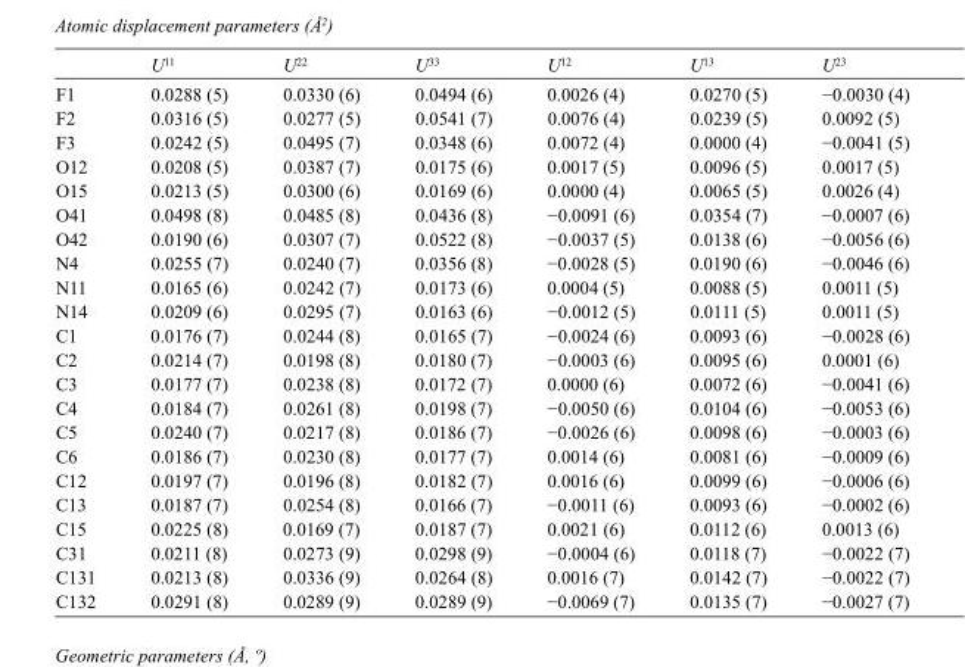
<table><thead><tr><td></td><td>U<sup>11</sup></td><td>U<sup>22</sup></td><td>U<sup>33</sup></td><td>U<sup>12</sup></td><td>U<sup>13</sup></td><td>U<sup>23</sup></td></tr></thead><tbody><tr><td>F1</td><td>0.0288 (5)</td><td>0.0330 (6)</td><td>0.0494 (6)</td><td>0.0026 (4)</td><td>0.0270 (5)</td><td>−0.0030 (4)</td></tr><tr><td>F2</td><td>0.0316 (5)</td><td>0.0277 (5)</td><td>0.0541 (7)</td><td>0.0076 (4)</td><td>0.0239 (5)</td><td>0.0092 (5)</td></tr><tr><td>F3</td><td>0.0242 (5)</td><td>0.0495 (7)</td><td>0.0348 (6)</td><td>0.0072 (4)</td><td>0.0000 (4)</td><td>−0.0041 (5)</td></tr><tr><td>O12</td><td>0.0208 (5)</td><td>0.0387 (7)</td><td>0.0175 (6)</td><td>0.0017 (5)</td><td>0.0096 (5)</td><td>0.0017 (5)</td></tr><tr><td>O15</td><td>0.0213 (5)</td><td>0.0300 (6)</td><td>0.0169 (6)</td><td>0.0000 (4)</td><td>0.0065 (5)</td><td>0.0026 (4)</td></tr><tr><td>O41</td><td>0.0498 (8)</td><td>0.0485 (8)</td><td>0.0436 (8)</td><td>−0.0091 (6)</td><td>0.0354 (7)</td><td>−0.0007 (6)</td></tr><tr><td>O42</td><td>0.0190 (6)</td><td>0.0307 (7)</td><td>0.0522 (8)</td><td>−0.0037 (5)</td><td>0.0138 (6)</td><td>−0.0056 (6)</td></tr><tr><td>N4</td><td>0.0255 (7)</td><td>0.0240 (7)</td><td>0.0356 (8)</td><td>−0.0028 (5)</td><td>0.0190 (6)</td><td>−0.0046 (6)</td></tr><tr><td>N11</td><td>0.0165 (6)</td><td>0.0242 (7)</td><td>0.0173 (6)</td><td>0.0004 (5)</td><td>0.0088 (5)</td><td>0.0011 (5)</td></tr><tr><td>N14</td><td>0.0209 (6)</td><td>0.0295 (7)</td><td>0.0163 (6)</td><td>−0.0012 (5)</td><td>0.0111 (5)</td><td>0.0011 (5)</td></tr><tr><td>C1</td><td>0.0176 (7)</td><td>0.0244 (8)</td><td>0.0165 (7)</td><td>−0.0024 (6)</td><td>0.0093 (6)</td><td>−0.0028 (6)</td></tr><tr><td>C2</td><td>0.0214 (7)</td><td>0.0198 (8)</td><td>0.0180 (7)</td><td>−0.0003 (6)</td><td>0.0095 (6)</td><td>0.0001 (6)</td></tr><tr><td>C3</td><td>0.0177 (7)</td><td>0.0238 (8)</td><td>0.0172 (7)</td><td>0.0000 (6)</td><td>0.0072 (6)</td><td>−0.0041 (6)</td></tr><tr><td>C4</td><td>0.0184 (7)</td><td>0.0261 (8)</td><td>0.0198 (7)</td><td>−0.0050 (6)</td><td>0.0104 (6)</td><td>−0.0053 (6)</td></tr><tr><td>C5</td><td>0.0240 (7)</td><td>0.0217 (8)</td><td>0.0186 (7)</td><td>−0.0026 (6)</td><td>0.0098 (6)</td><td>−0.0003 (6)</td></tr><tr><td>C6</td><td>0.0186 (7)</td><td>0.0230 (8)</td><td>0.0177 (7)</td><td>0.0014 (6)</td><td>0.0081 (6)</td><td>−0.0009 (6)</td></tr><tr><td>C12</td><td>0.0197 (7)</td><td>0.0196 (8)</td><td>0.0182 (7)</td><td>0.0016 (6)</td><td>0.0099 (6)</td><td>−0.0006 (6)</td></tr><tr><td>C13</td><td>0.0187 (7)</td><td>0.0254 (8)</td><td>0.0166 (7)</td><td>−0.0011 (6)</td><td>0.0093 (6)</td><td>−0.0002 (6)</td></tr><tr><td>C15</td><td>0.0225 (8)</td><td>0.0169 (7)</td><td>0.0187 (7)</td><td>0.0021 (6)</td><td>0.0112 (6)</td><td>0.0013 (6)</td></tr><tr><td>C31</td><td>0.0211 (8)</td><td>0.0273 (9)</td><td>0.0298 (9)</td><td>−0.0004 (6)</td><td>0.0118 (7)</td><td>−0.0022 (7)</td></tr><tr><td>C131</td><td>0.0213 (8)</td><td>0.0336 (9)</td><td>0.0264 (8)</td><td>0.0016 (7)</td><td>0.0142 (7)</td><td>−0.0022 (7)</td></tr><tr><td>C132</td><td>0.0291 (8)</td><td>0.0289 (9)</td><td>0.0289 (9)</td><td>−0.0069 (7)</td><td>0.0135 (7)</td><td>−0.0027 (7)</td></tr></tbody></table>